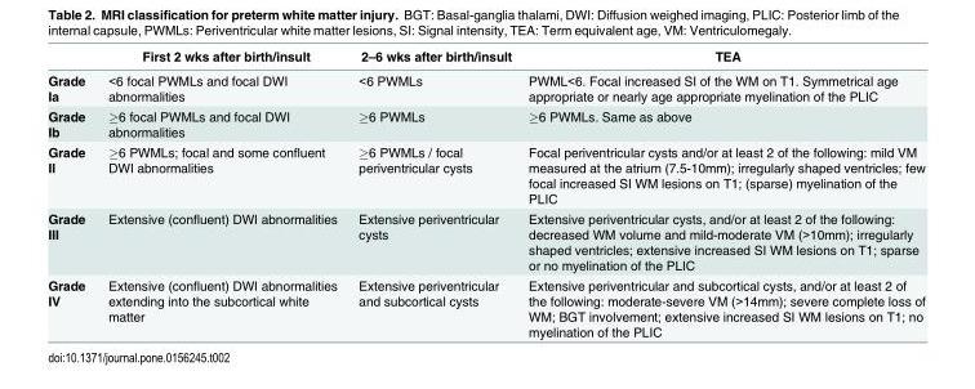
<table><thead><tr><td></td><td>First 2 wks after birth/insult</td><td>2–6 wks after birth/insult</td><td>TEA</td></tr></thead><tbody><tr><td>Grade Ia</td><td>&lt;6 focal PWMLs and focal DWI abnormalities</td><td>&lt;6 PWMLs</td><td>PWML&lt;6. Focal increased SI of the WM on T1. Symmetrical age appropriate or nearly age appropriate myelination of the PLIC</td></tr><tr><td>Grade Ib</td><td>≥6 focal PWMLs and focal DWI abnormalities</td><td>≥6 PWMLs</td><td>≥6 PWMLs. Same as above</td></tr><tr><td>Grade II</td><td>≥6 PWMLs; focal and some confluent DWI abnormalities</td><td>≥6 PWMLs / focal periventricular cysts</td><td>Focal periventricular cysts and/or at least 2 of the following: mild VM measured at the atrium (7.5-10mm); irregularly shaped ventricles; few focal increased SI WM lesions on T1; (sparse) myelination of the PLIC</td></tr><tr><td>Grade III</td><td>Extensive (confluent) DWI abnormalities</td><td>Extensive periventricular cysts</td><td>Extensive periventricular cysts, and/or at least 2 of the following: decreased WM volume and mild-moderate VM (&gt;10mm); irregularly shaped ventricles; extensive increased SI WM lesions on T1; sparse or no myelination of the PLIC</td></tr><tr><td>Grade IV</td><td>Extensive (confluent) DWI abnormalities extending into the subcortical white matter</td><td>Extensive periventricular and subcortical cysts</td><td>Extensive periventricular and subcortical cysts, and/or at least 2 of the following: moderate-severe VM (&gt;14mm); severe complete loss of WM; BGT involvement; extensive increased SI WM lesions on T1; no myelination of the PLIC</td></tr></tbody></table>